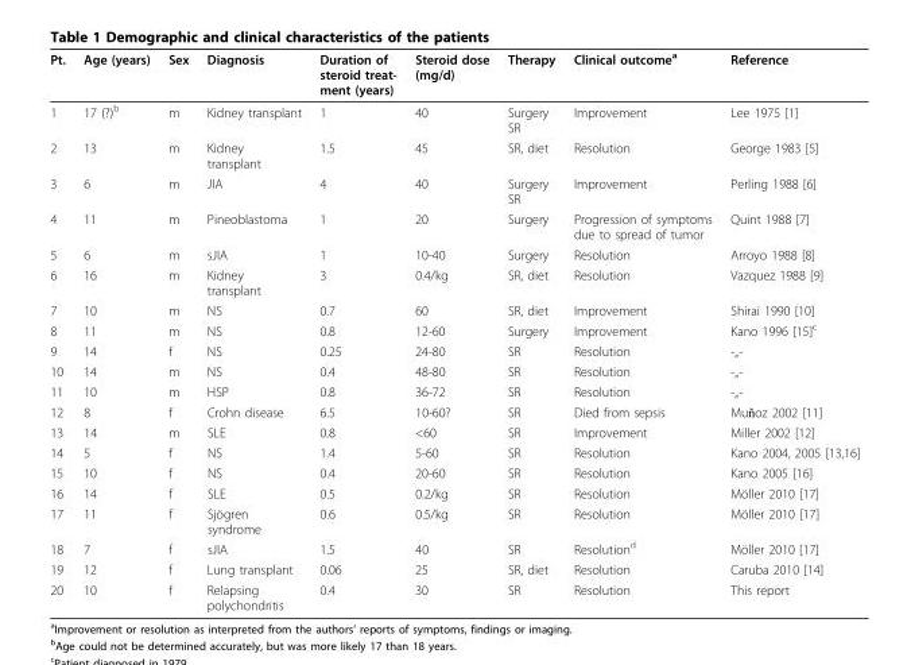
<table><thead><tr><td>Pt.</td><td>Age (years)</td><td>Sex</td><td>Diagnosis</td><td>Duration of steroid treat- ment (years)</td><td>Steroid dose (mg/d)</td><td>Therapy</td><td>Clinical outcome<sup>a</sup></td><td>Reference</td></tr></thead><tbody><tr><td>1</td><td>17 (?)<sup>b</sup></td><td>m</td><td>Kidney transplant</td><td>1</td><td>40</td><td>Surgery SR</td><td>Improvement</td><td>Lee 1975 [1]</td></tr><tr><td>2</td><td>13</td><td>m</td><td>Kidney transplant</td><td>1.5</td><td>45</td><td>SR, diet</td><td>Resolution</td><td>George 1983 [5]</td></tr><tr><td>3</td><td>6</td><td>m</td><td>JIA</td><td>4</td><td>40</td><td>Surgery SR</td><td>Improvement</td><td>Perling 1988 [6]</td></tr><tr><td>4</td><td>11</td><td>m</td><td>Pineoblastoma</td><td>1</td><td>20</td><td>Surgery</td><td>Progression of symptoms due to spread of tumor</td><td>Quint 1988 [7]</td></tr><tr><td>5</td><td>6</td><td>m</td><td>sJIA</td><td>1</td><td>10-40</td><td>Surgery</td><td>Resolution</td><td>Arroyo 1988 [8]</td></tr><tr><td>6</td><td>16</td><td>m</td><td>Kidney transplant</td><td>3</td><td>0.4/kg</td><td>SR, diet</td><td>Resolution</td><td>Vazquez 1988 [9]</td></tr><tr><td>7</td><td>10</td><td>m</td><td>NS</td><td>0.7</td><td>60</td><td>SR, diet</td><td>Improvement</td><td>Shirai 1990 [10]</td></tr><tr><td>8</td><td>11</td><td>m</td><td>NS</td><td>0.8</td><td>12-60</td><td>Surgery</td><td>Improvement</td><td>Kano 1996 [15]<sup>c</sup></td></tr><tr><td>9</td><td>14</td><td>f</td><td>NS</td><td>0.25</td><td>24-80</td><td>SR</td><td>Resolution</td><td>-„-</td></tr><tr><td>10</td><td>14</td><td>m</td><td>NS</td><td>0.4</td><td>48-80</td><td>SR</td><td>Resolution</td><td>-„-</td></tr><tr><td>11</td><td>10</td><td>m</td><td>HSP</td><td>0.8</td><td>36-72</td><td>SR</td><td>Resolution</td><td>-„-</td></tr><tr><td>12</td><td>8</td><td>f</td><td>Crohn disease</td><td>6.5</td><td>10-60?</td><td>SR</td><td>Died from sepsis</td><td>Muňoz 2002 [11]</td></tr><tr><td>13</td><td>14</td><td>m</td><td>SLE</td><td>0.8</td><td>&lt;60</td><td>SR</td><td>Improvement</td><td>Miller 2002 [12]</td></tr><tr><td>14</td><td>5</td><td>f</td><td>NS</td><td>1.4</td><td>5-60</td><td>SR</td><td>Resolution</td><td>Kano 2004, 2005 [13,16]</td></tr><tr><td>15</td><td>10</td><td>f</td><td>NS</td><td>0.4</td><td>20-60</td><td>SR</td><td>Resolution</td><td>Kano 2005 [16]</td></tr><tr><td>16</td><td>14</td><td>f</td><td>SLE</td><td>0.5</td><td>0.2/kg</td><td>SR</td><td>Resolution</td><td>Möller 2010 [17]</td></tr><tr><td>17</td><td>11</td><td>f</td><td>Sjögren syndrome</td><td>0.6</td><td>0.5/kg</td><td>SR</td><td>Resolution</td><td>Möller 2010 [17]</td></tr><tr><td>18</td><td>7</td><td>f</td><td>sJIA</td><td>1.5</td><td>40</td><td>SR</td><td>Resolution<sup>d</sup></td><td>Möller 2010 [17]</td></tr><tr><td>19</td><td>12</td><td>f</td><td>Lung transplant</td><td>0.06</td><td>25</td><td>SR, diet</td><td>Resolution</td><td>Caruba 2010 [14]</td></tr><tr><td>20</td><td>10</td><td>f</td><td>Relapsing polychondritis</td><td>0.4</td><td>30</td><td>SR</td><td>Resolution</td><td>This report</td></tr></tbody></table>